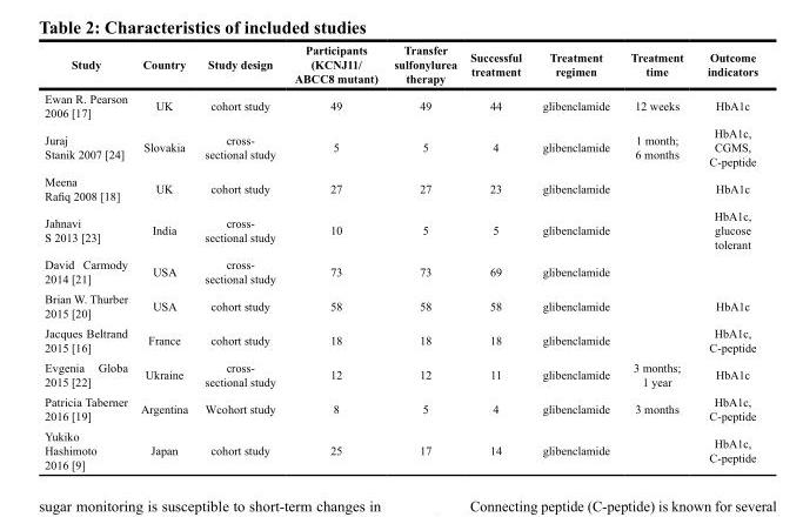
<table><thead><tr><td>Study</td><td>Country</td><td>Study design</td><td>Participants (KCNJ11/ ABCC8 mutant)</td><td>Transfer sulfonylurea therapy</td><td>Successful treatment</td><td>Treatment regimen</td><td>Treatment time</td><td>Outcome indicators</td></tr></thead><tbody><tr><td>Ewan R. Pearson 2006 [17]</td><td>UK</td><td>cohort study</td><td>49</td><td>49</td><td>44</td><td>glibenclamide</td><td>12 weeks</td><td>HbA1c</td></tr><tr><td>Juraj Stanik 2007 [24]</td><td>Slovakia</td><td>cross- sectional study</td><td>5</td><td>5</td><td>4</td><td>glibenclamide</td><td>1 month; 6 months</td><td>HbA1c, CGMS, C-peptide</td></tr><tr><td>Meena Rafiq 2008 [18]</td><td>UK</td><td>cohort study</td><td>27</td><td>27</td><td>23</td><td>glibenclamide</td><td></td><td>HbA1c</td></tr><tr><td>Jahnavi S 2013 [23]</td><td>India</td><td>cross- sectional study</td><td>10</td><td>5</td><td>5</td><td>glibenclamide</td><td></td><td>HbA1c, glucose tolerant</td></tr><tr><td>David Carmody 2014 [21]</td><td>USA</td><td>cross- sectional study</td><td>73</td><td>73</td><td>69</td><td>glibenclamide</td><td></td><td></td></tr><tr><td>Brian W. Thurber 2015 [20]</td><td>USA</td><td>cohort study</td><td>58</td><td>58</td><td>58</td><td>glibenclamide</td><td></td><td>HbA1c</td></tr><tr><td>Jacques Beltrand 2015 [16]</td><td>France</td><td>cohort study</td><td>18</td><td>18</td><td>18</td><td>glibenclamide</td><td></td><td>HbA1c, C-peptide</td></tr><tr><td>Evgenia Globa 2015 [22]</td><td>Ukraine</td><td>cross- sectional study</td><td>12</td><td>12</td><td>11</td><td>glibenclamide</td><td>3 months; 1 year</td><td>HbA1c</td></tr><tr><td>Patricia Taberner 2016 [19]</td><td>Argentina</td><td>Wcohort study</td><td>8</td><td>5</td><td>4</td><td>glibenclamide</td><td>3 months</td><td>HbA1c, C-peptide</td></tr><tr><td>Yukiko Hashimoto 2016 [9]</td><td>Japan</td><td>cohort study</td><td>25</td><td>17</td><td>14</td><td>glibenclamide</td><td></td><td>HbA1c, C-peptide</td></tr></tbody></table>